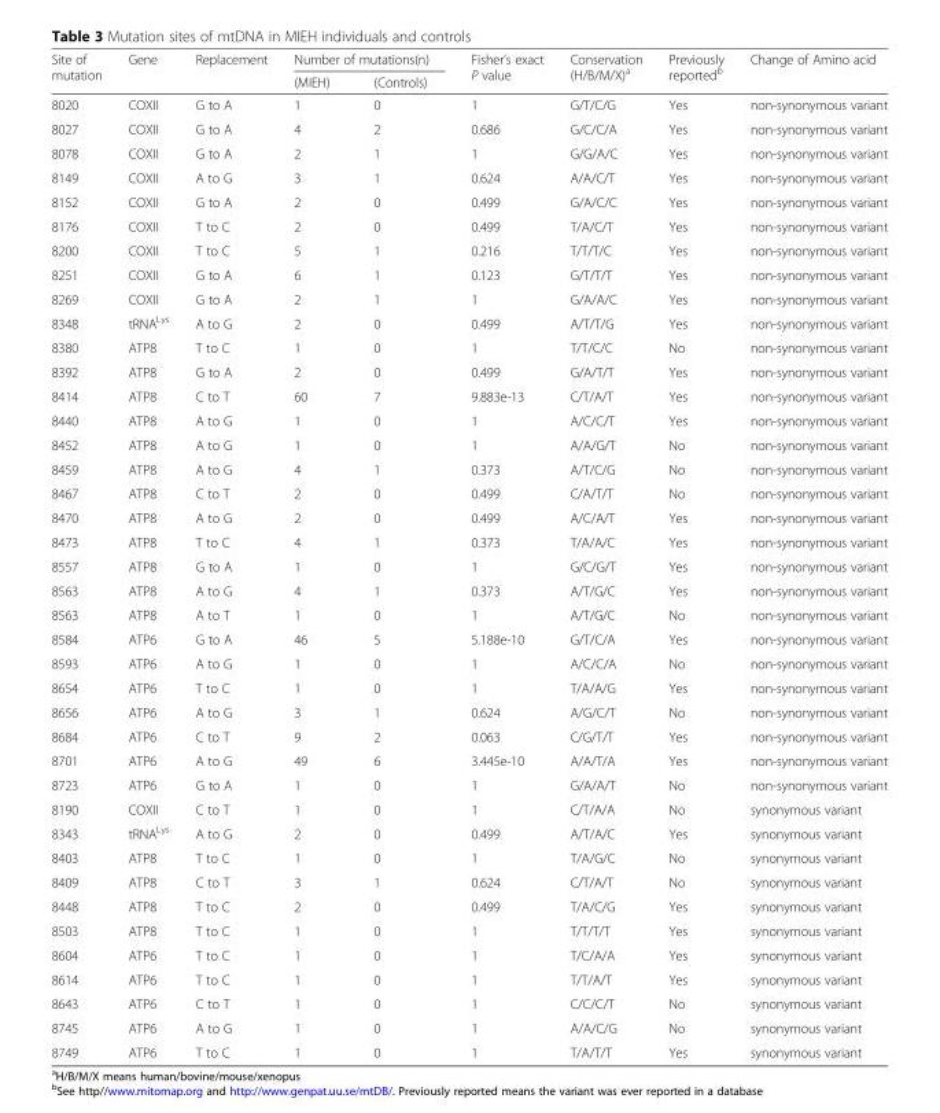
<table><thead><tr><td rowspan="2">Site of mutation</td><td rowspan="2">Gene</td><td rowspan="2">Replacement</td><td colspan="2">Number of mutations(n)</td><td rowspan="2">Fisher’s exact P value</td><td rowspan="2">Conservation (H/B/M/X)<sup>a</sup></td><td rowspan="2">Previously reported<sup>b</sup></td><td rowspan="2">Change of Amino acid</td></tr><tr><td>(MIEH)</td><td>(Controls)</td></tr></thead><tbody><tr><td>8020</td><td>COXII</td><td>G to A</td><td>1</td><td>0</td><td>1</td><td>G/T/C/G</td><td>Yes</td><td>non-synonymous variant</td></tr><tr><td>8027</td><td>COXII</td><td>G to A</td><td>4</td><td>2</td><td>0.686</td><td>G/C/C/A</td><td>Yes</td><td>non-synonymous variant</td></tr><tr><td>8078</td><td>COXII</td><td>G to A</td><td>2</td><td>1</td><td>1</td><td>G/G/A/C</td><td>Yes</td><td>non-synonymous variant</td></tr><tr><td>8149</td><td>COXII</td><td>A to G</td><td>3</td><td>1</td><td>0.624</td><td>A/A/C/T</td><td>Yes</td><td>non-synonymous variant</td></tr><tr><td>8152</td><td>COXII</td><td>G to A</td><td>2</td><td>0</td><td>0.499</td><td>G/A/C/C</td><td>Yes</td><td>non-synonymous variant</td></tr><tr><td>8176</td><td>COXII</td><td>T to C</td><td>2</td><td>0</td><td>0.499</td><td>T/A/C/T</td><td>Yes</td><td>non-synonymous variant</td></tr><tr><td>8200</td><td>COXII</td><td>T to C</td><td>5</td><td>1</td><td>0.216</td><td>T/T/T/C</td><td>Yes</td><td>non-synonymous variant</td></tr><tr><td>8251</td><td>COXII</td><td>G to A</td><td>6</td><td>1</td><td>0.123</td><td>G/T/T/T</td><td>Yes</td><td>non-synonymous variant</td></tr><tr><td>8269</td><td>COXII</td><td>G to A</td><td>2</td><td>1</td><td>1</td><td>G/A/A/C</td><td>Yes</td><td>non-synonymous variant</td></tr><tr><td>8348</td><td>tRNA<sup>Lys</sup></td><td>A to G</td><td>2</td><td>0</td><td>0.499</td><td>A/T/T/G</td><td>Yes</td><td>non-synonymous variant</td></tr><tr><td>8380</td><td>ATP8</td><td>T to C</td><td>1</td><td>0</td><td>1</td><td>T/T/C/C</td><td>No</td><td>non-synonymous variant</td></tr><tr><td>8392</td><td>ATP8</td><td>G to A</td><td>2</td><td>0</td><td>0.499</td><td>G/A/T/T</td><td>Yes</td><td>non-synonymous variant</td></tr><tr><td>8414</td><td>ATP8</td><td>C to T</td><td>60</td><td>7</td><td>9.883e-13</td><td>C/T/A/T</td><td>Yes</td><td>non-synonymous variant</td></tr><tr><td>8440</td><td>ATP8</td><td>A to G</td><td>1</td><td>0</td><td>1</td><td>A/C/C/T</td><td>Yes</td><td>non-synonymous variant</td></tr><tr><td>8452</td><td>ATP8</td><td>A to G</td><td>1</td><td>0</td><td>1</td><td>A/A/G/T</td><td>No</td><td>non-synonymous variant</td></tr><tr><td>8459</td><td>ATP8</td><td>A to G</td><td>4</td><td>1</td><td>0.373</td><td>A/T/C/G</td><td>No</td><td>non-synonymous variant</td></tr><tr><td>8467</td><td>ATP8</td><td>C to T</td><td>2</td><td>0</td><td>0.499</td><td>C/A/T/T</td><td>No</td><td>non-synonymous variant</td></tr><tr><td>8470</td><td>ATP8</td><td>A to G</td><td>2</td><td>0</td><td>0.499</td><td>A/C/A/T</td><td>Yes</td><td>non-synonymous variant</td></tr><tr><td>8473</td><td>ATP8</td><td>T to C</td><td>4</td><td>1</td><td>0.373</td><td>T/A/A/C</td><td>Yes</td><td>non-synonymous variant</td></tr><tr><td>8557</td><td>ATP8</td><td>G to A</td><td>1</td><td>0</td><td>1</td><td>G/C/G/T</td><td>Yes</td><td>non-synonymous variant</td></tr><tr><td>8563</td><td>ATP8</td><td>A to G</td><td>4</td><td>1</td><td>0.373</td><td>A/T/G/C</td><td>Yes</td><td>non-synonymous variant</td></tr><tr><td>8563</td><td>ATP8</td><td>A to T</td><td>1</td><td>0</td><td>1</td><td>A/T/G/C</td><td>No</td><td>non-synonymous variant</td></tr><tr><td>8584</td><td>ATP6</td><td>G to A</td><td>46</td><td>5</td><td>5.188e-10</td><td>G/T/C/A</td><td>Yes</td><td>non-synonymous variant</td></tr><tr><td>8593</td><td>ATP6</td><td>A to G</td><td>1</td><td>0</td><td>1</td><td>A/C/C/A</td><td>No</td><td>non-synonymous variant</td></tr><tr><td>8654</td><td>ATP6</td><td>T to C</td><td>1</td><td>0</td><td>1</td><td>T/A/A/G</td><td>Yes</td><td>non-synonymous variant</td></tr><tr><td>8656</td><td>ATP6</td><td>A to G</td><td>3</td><td>1</td><td>0.624</td><td>A/G/C/T</td><td>No</td><td>non-synonymous variant</td></tr><tr><td>8684</td><td>ATP6</td><td>C to T</td><td>9</td><td>2</td><td>0.063</td><td>C/G/T/T</td><td>Yes</td><td>non-synonymous variant</td></tr><tr><td>8701</td><td>ATP6</td><td>A to G</td><td>49</td><td>6</td><td>3.445e-10</td><td>A/A/T/A</td><td>Yes</td><td>non-synonymous variant</td></tr><tr><td>8723</td><td>ATP6</td><td>G to A</td><td>1</td><td>0</td><td>1</td><td>G/A/A/T</td><td>No</td><td>non-synonymous variant</td></tr><tr><td>8190</td><td>COXII</td><td>C to T</td><td>1</td><td>0</td><td>1</td><td>C/T/A/A</td><td>No</td><td>synonymous variant</td></tr><tr><td>8343</td><td>tRNA<sup>Lys</sup></td><td>A to G</td><td>2</td><td>0</td><td>0.499</td><td>A/T/A/C</td><td>Yes</td><td>synonymous variant</td></tr><tr><td>8403</td><td>ATP8</td><td>T to C</td><td>1</td><td>0</td><td>1</td><td>T/A/G/C</td><td>No</td><td>synonymous variant</td></tr><tr><td>8409</td><td>ATP8</td><td>C to T</td><td>3</td><td>1</td><td>0.624</td><td>C/T/A/T</td><td>No</td><td>synonymous variant</td></tr><tr><td>8448</td><td>ATP8</td><td>T to C</td><td>2</td><td>0</td><td>0.499</td><td>T/A/C/G</td><td>Yes</td><td>synonymous variant</td></tr><tr><td>8503</td><td>ATP8</td><td>T to C</td><td>1</td><td>0</td><td>1</td><td>T/T/T/T</td><td>Yes</td><td>synonymous variant</td></tr><tr><td>8604</td><td>ATP6</td><td>T to C</td><td>1</td><td>0</td><td>1</td><td>T/C/A/A</td><td>Yes</td><td>synonymous variant</td></tr><tr><td>8614</td><td>ATP6</td><td>T to C</td><td>1</td><td>0</td><td>1</td><td>T/T/A/T</td><td>Yes</td><td>synonymous variant</td></tr><tr><td>8643</td><td>ATP6</td><td>C to T</td><td>1</td><td>0</td><td>1</td><td>C/C/C/T</td><td>No</td><td>synonymous variant</td></tr><tr><td>8745</td><td>ATP6</td><td>A to G</td><td>1</td><td>0</td><td>1</td><td>A/A/C/G</td><td>No</td><td>synonymous variant</td></tr><tr><td>8749</td><td>ATP6</td><td>T to C</td><td>1</td><td>0</td><td>1</td><td>T/A/T/T</td><td>Yes</td><td>synonymous variant</td></tr></tbody></table>